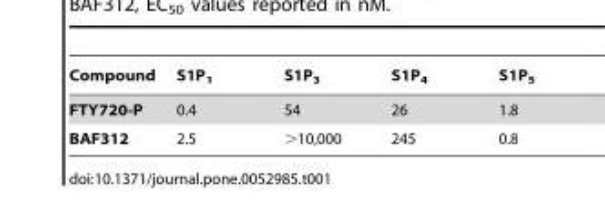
<table><thead><tr><td>Compound</td><td>S1P<sub>1</sub></td><td>S1P<sub>3</sub></td><td>S1P<sub>4</sub></td><td>S1P<sub>5</sub></td></tr></thead><tbody><tr><td>FTY720-P</td><td>0.4</td><td>54</td><td>26</td><td>1.8</td></tr><tr><td>BAF312</td><td>2.5</td><td>&gt;10,000</td><td>245</td><td>0.8</td></tr></tbody></table>